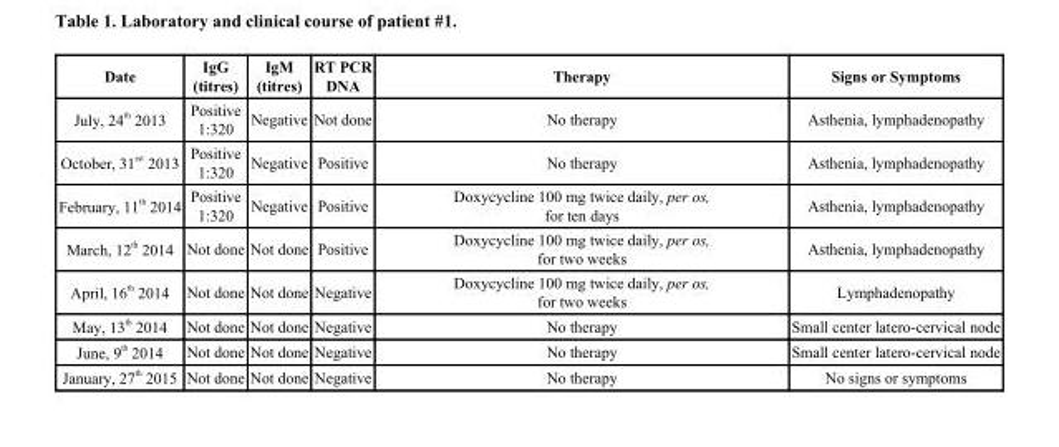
<table><thead><tr><td>Date</td><td>IgG (titres)</td><td>IgM (titres)</td><td>RT PCR DNA</td><td>Therapy</td><td>Signs or Symptoms</td></tr></thead><tbody><tr><td>July, 24 <sup>th</sup> 2013</td><td>Positive 1:320</td><td>Negative</td><td>Not done</td><td>No therapy</td><td>Asthenia, lymphadenopathy</td></tr><tr><td>October, 31 <sup>rst</sup> 2013</td><td>Positive 1:320</td><td>Negative</td><td>Positive</td><td>No therapy</td><td>Asthenia, lymphadenopathy</td></tr><tr><td>February, 11 <sup>th</sup> 2014</td><td>Positive 1:320</td><td>Negative</td><td>Positive</td><td>Doxycycline 100 mg twice daily, per os, for ten days</td><td>Asthenia, lymphadenopathy</td></tr><tr><td>March, 12 <sup>th</sup> 2014</td><td>Not done</td><td>Not done</td><td>Positive</td><td>Doxycycline 100 mg twice daily, per os, for two weeks</td><td>Asthenia, lymphadenopathy</td></tr><tr><td>April, 16 <sup>th</sup> 2014</td><td>Not done</td><td>Not done</td><td>Negative</td><td>Doxycycline 100 mg twice daily, per os, for two weeks</td><td>Lymphadenopathy</td></tr><tr><td>May, 13 <sup>th</sup> 2014</td><td>Not done</td><td>Not done</td><td>Negative</td><td>No therapy</td><td>Small center latero-cervical node</td></tr><tr><td>June, 9 <sup>th</sup> 2014</td><td>Not done</td><td>Not done</td><td>Negative</td><td>No therapy</td><td>Small center latero-cervical node</td></tr><tr><td>January, 27 <sup>th</sup> 2015</td><td>Not done</td><td>Not done</td><td>Negative</td><td>No therapy</td><td>No signs or symptoms</td></tr></tbody></table>